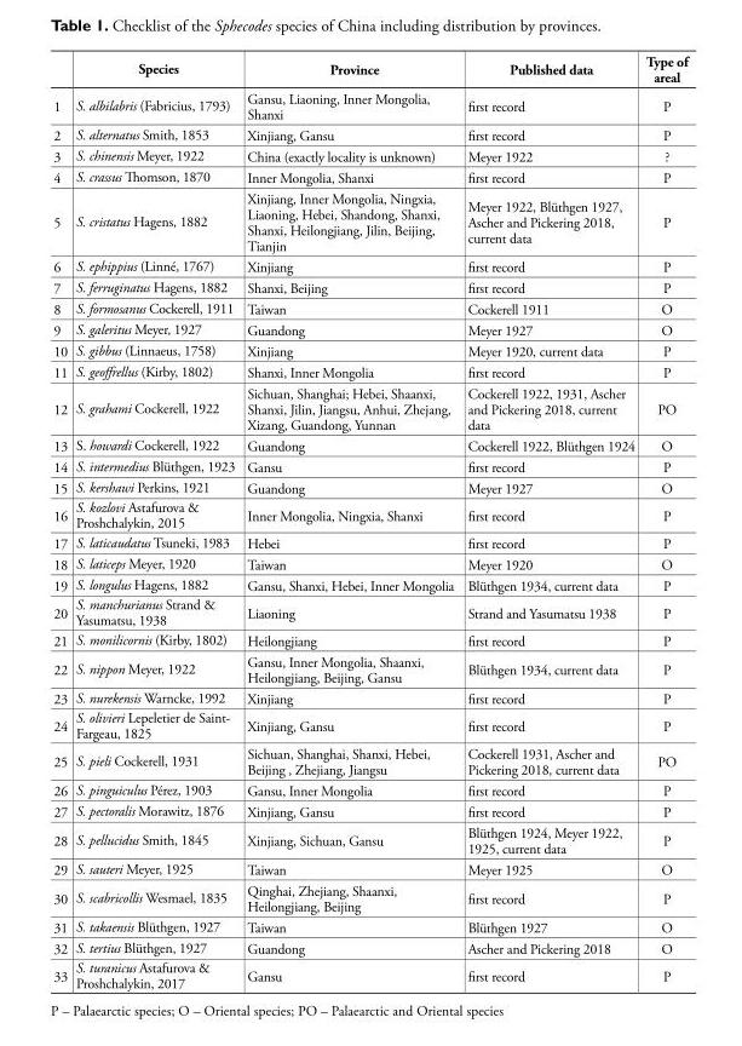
<table><thead><tr><td></td><td>Species</td><td>Province</td><td>Published data</td><td>Type of areal</td></tr></thead><tbody><tr><td>1</td><td>S. albilabris (Fabricius, 1793)</td><td>Gansu, Liaoning, Inner Mongolia, Shanxi</td><td>first record</td><td>P</td></tr><tr><td>2</td><td>S. alternatus Smith, 1853</td><td>Xinjiang, Gansu</td><td>first record</td><td>P</td></tr><tr><td>3</td><td>S. chinensis Meyer, 1922</td><td>China (exactly locality is unknown)</td><td>Meyer 1922</td><td>?</td></tr><tr><td>4</td><td>S. crassus Thomson, 1870</td><td>Inner Mongolia, Shanxi</td><td>first record</td><td>P</td></tr><tr><td>5</td><td>S. cristatus Hagens, 1882</td><td>Xinjiang, Inner Mongolia, Ningxia, Liaoning, Hebei, Shandong, Shanxi, Shanxi, Heilongjiang, Jilin, Beijing, Tianjin</td><td>Meyer 1922, Blüthgen 1927, Ascher and Pickering 2018, current data</td><td>P</td></tr><tr><td>6</td><td>S. ephippius (Linné, 1767)</td><td>Xinjiang</td><td>first record</td><td>P</td></tr><tr><td>7</td><td>S. ferruginatus Hagens, 1882</td><td>Shanxi, Beijing</td><td>first record</td><td>P</td></tr><tr><td>8</td><td>S. formosanus Cockerell, 1911</td><td>Taiwan</td><td>Cockerell 1911</td><td>O</td></tr><tr><td>9</td><td>S. galeritus Meyer, 1927</td><td>Guandong</td><td>Meyer 1927</td><td>O</td></tr><tr><td>10</td><td>S. gibbus (Linnaeus, 1758)</td><td>Xinjiang</td><td>Meyer 1920, current data</td><td>P</td></tr><tr><td>11</td><td>S. geoffrellus (Kirby, 1802)</td><td>Shanxi, Inner Mongolia</td><td>first record</td><td>P</td></tr><tr><td>12</td><td>S. grahami Cockerell, 1922</td><td>Sichuan, Shanghai; Hebei, Shaanxi, Shanxi, Jilin, Jiangsu, Anhui, Zhejang, Xizang, Guandong, Yunnan</td><td>Cockerell 1922, 1931, Ascher and Pickering 2018, current data</td><td>PO</td></tr><tr><td>13</td><td>S. howardi Cockerell, 1922</td><td>Guandong</td><td>Cockerell 1922, Blüthgen 1924</td><td>O</td></tr><tr><td>14</td><td>S. intermedius Blüthgen, 1923</td><td>Gansu</td><td>first record</td><td>P</td></tr><tr><td>15</td><td>S. kershawi Perkins, 1921</td><td>Guandong</td><td>Meyer 1927</td><td>O</td></tr><tr><td>16</td><td>S. kozlovi Astafurova &amp; Proshchalykin, 2015</td><td>Inner Mongolia, Ningxia, Shanxi</td><td>first record</td><td>P</td></tr><tr><td>17</td><td>S. laticaudatus Tsuneki, 1983</td><td>Hebei</td><td>first record</td><td>P</td></tr><tr><td>18</td><td>S. laticeps Meyer, 1920</td><td>Taiwan</td><td>Meyer 1920</td><td>O</td></tr><tr><td>19</td><td>S. longulus Hagens, 1882</td><td>Gansu, Shanxi, Hebei, Inner Mongolia</td><td>Blüthgen 1934, current data</td><td>P</td></tr><tr><td>20</td><td>S. manchurianus Strand &amp; Yasumatsu, 1938</td><td>Liaoning</td><td>Strand and Yasumatsu 1938</td><td>P</td></tr><tr><td>21</td><td>S. monilicornis (Kirby, 1802)</td><td>Heilongjiang</td><td>first record</td><td>P</td></tr><tr><td>22</td><td>S. nippon Meyer, 1922</td><td>Gansu, Inner Mongolia, Shaanxi, Heilongjiang, Beijing, Gansu</td><td>Blüthgen 1934, current data</td><td>P</td></tr><tr><td>23</td><td>S. nurekensis Warncke, 1992</td><td>Xinjiang</td><td>first record</td><td>P</td></tr><tr><td>24</td><td>S. olivieri Lepeletier de Saint- Fargeau, 1825</td><td>Xinjiang, Gansu</td><td>first record</td><td>P</td></tr><tr><td>25</td><td>S. pieli Cockerell, 1931</td><td>Sichuan, Shanghai, Shanxi, Hebei, Beijing , Zhejiang, Jiangsu</td><td>Cockerell 1931, Ascher and Pickering 2018, current data</td><td>PO</td></tr><tr><td>26</td><td>S. pinguiculus Pérez, 1903</td><td>Gansu, Inner Mongolia</td><td>first record</td><td>P</td></tr><tr><td>27</td><td>S. pectoralis Morawitz, 1876</td><td>Xinjiang, Gansu</td><td>first record</td><td>P</td></tr><tr><td>28</td><td>S. pellucidus Smith, 1845</td><td>Xinjiang, Sichuan, Gansu</td><td>Blüthgen 1924, Meyer 1922, 1925, current data</td><td>P</td></tr><tr><td>29</td><td>S. sauteri Meyer, 1925</td><td>Taiwan</td><td>Meyer 1925</td><td>O</td></tr><tr><td>30</td><td>S. scabricollis Wesmael, 1835</td><td>Qinghai, Zhejiang, Shaanxi, Heilongjiang, Beijing</td><td>first record</td><td>P</td></tr><tr><td>31</td><td>S. takaensis Blüthgen, 1927</td><td>Taiwan</td><td>Blüthgen 1927</td><td>O</td></tr><tr><td>32</td><td>S. tertius Blüthgen, 1927</td><td>Guandong</td><td>Ascher and Pickering 2018</td><td>O</td></tr><tr><td>33</td><td>S. turanicus Astafurova &amp; Proshchalykin, 2017</td><td>Gansu</td><td>first record</td><td>P</td></tr></tbody></table>